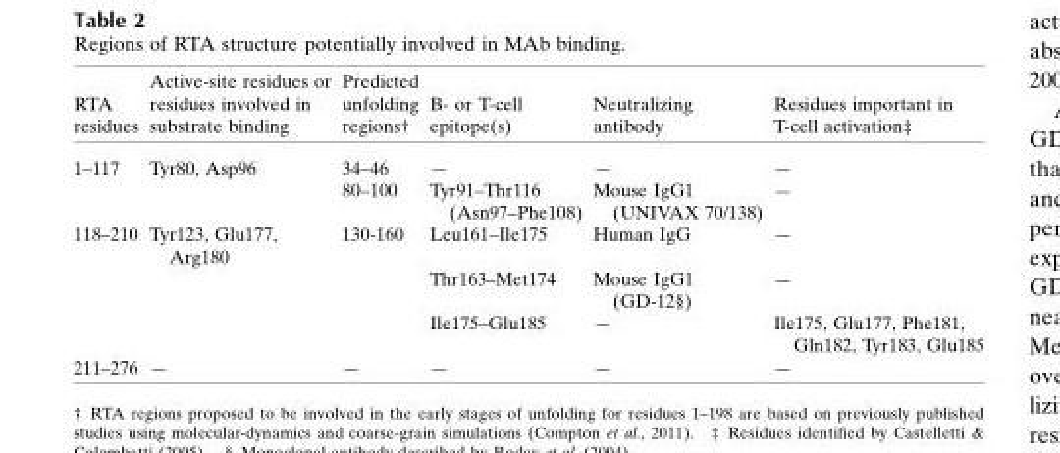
<table><thead><tr><td>RTA residues</td><td>Active-site residues or residues involved in substrate binding</td><td>Predicted unfolding regions†</td><td>B- or T-cell epitope(s)</td><td>Neutralizing antibody</td><td>Residues important in T-cell activation‡</td></tr></thead><tbody><tr><td rowspan="2">1–117</td><td>Tyr80, Asp96</td><td>34–46</td><td>—</td><td>—</td><td>—</td></tr><tr><td></td><td>80–100</td><td>Tyr91–Thr116 (Asn97–Phe108)</td><td>Mouse IgG1 (UNIVAX 70/138)</td><td>—</td></tr><tr><td rowspan="3">118–210</td><td>Tyr123, Glu177, Arg180</td><td>130-160</td><td>Leu161–Ile175</td><td>Human IgG</td><td>—</td></tr><tr><td></td><td></td><td>Thr163–Met174</td><td>Mouse IgG1 (GD-12§)</td><td>—</td></tr><tr><td></td><td></td><td>Ile175–Glu185</td><td>—</td><td>Ile175, Glu177, Phe181, Gln182, Tyr183, Glu185</td></tr><tr><td>211–276</td><td>—</td><td>—</td><td>—</td><td>—</td><td>—</td></tr></tbody></table>